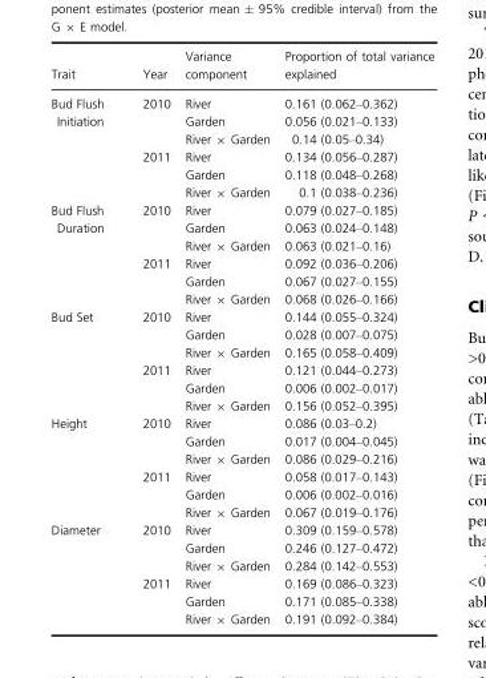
<table><thead><tr><td>Trait</td><td>Year</td><td>Variance component</td><td>Proportion of total variance explained</td></tr></thead><tbody><tr><td rowspan="6">Bud Flush Initiation</td><td rowspan="3">2010</td><td>River</td><td>0.161 (0.062–0.362)</td></tr><tr><td>Garden</td><td>0.056 (0.021–0.133)</td></tr><tr><td>River × Garden</td><td>0.14 (0.05–0.34)</td></tr><tr><td rowspan="3">2011</td><td>River</td><td>0.134 (0.056–0.287)</td></tr><tr><td>Garden</td><td>0.118 (0.048–0.268)</td></tr><tr><td>River × Garden</td><td>0.1 (0.038–0.236)</td></tr><tr><td rowspan="6">Bud Flush Duration</td><td rowspan="3">2010</td><td>River</td><td>0.079 (0.027–0.185)</td></tr><tr><td>Garden</td><td>0.063 (0.024–0.148)</td></tr><tr><td>River × Garden</td><td>0.063 (0.021–0.16)</td></tr><tr><td rowspan="3">2011</td><td>River</td><td>0.092 (0.036–0.206)</td></tr><tr><td>Garden</td><td>0.067 (0.027–0.155)</td></tr><tr><td>River × Garden</td><td>0.068 (0.026–0.166)</td></tr><tr><td rowspan="6">Bud Set</td><td rowspan="3">2010</td><td>River</td><td>0.144 (0.055–0.324)</td></tr><tr><td>Garden</td><td>0.028 (0.007–0.075)</td></tr><tr><td>River × Garden</td><td>0.165 (0.058–0.409)</td></tr><tr><td rowspan="3">2011</td><td>River</td><td>0.121 (0.044–0.273)</td></tr><tr><td>Garden</td><td>0.006 (0.002–0.017)</td></tr><tr><td>River × Garden</td><td>0.156 (0.052–0.395)</td></tr><tr><td rowspan="6">Height</td><td rowspan="3">2010</td><td>River</td><td>0.086 (0.03–0.2)</td></tr><tr><td>Garden</td><td>0.017 (0.004–0.045)</td></tr><tr><td>River × Garden</td><td>0.086 (0.029–0.216)</td></tr><tr><td rowspan="3">2011</td><td>River</td><td>0.058 (0.017–0.143)</td></tr><tr><td>Garden</td><td>0.006 (0.002–0.016)</td></tr><tr><td>River × Garden</td><td>0.067 (0.019–0.176)</td></tr><tr><td rowspan="6">Diameter</td><td rowspan="3">2010</td><td>River</td><td>0.309 (0.159–0.578)</td></tr><tr><td>Garden</td><td>0.246 (0.127–0.472)</td></tr><tr><td>River × Garden</td><td>0.284 (0.142–0.553)</td></tr><tr><td rowspan="3">2011</td><td>River</td><td>0.169 (0.086–0.323)</td></tr><tr><td>Garden</td><td>0.171 (0.085–0.338)</td></tr><tr><td>River × Garden</td><td>0.191 (0.092–0.384)</td></tr></tbody></table>